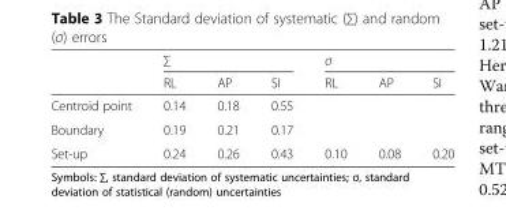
<table><thead><tr><td rowspan="2"></td><td colspan="3">∑</td><td colspan="3">σ</td></tr><tr><td>RL</td><td>AP</td><td>SI</td><td>RL</td><td>AP</td><td>SI</td></tr></thead><tbody><tr><td>Centroid point</td><td>0.14</td><td>0.18</td><td>0.55</td><td></td><td></td><td></td></tr><tr><td>Boundary</td><td>0.19</td><td>0.21</td><td>0.17</td><td></td><td></td><td></td></tr><tr><td>Set-up</td><td>0.24</td><td>0.26</td><td>0.43</td><td>0.10</td><td>0.08</td><td>0.20</td></tr></tbody></table>